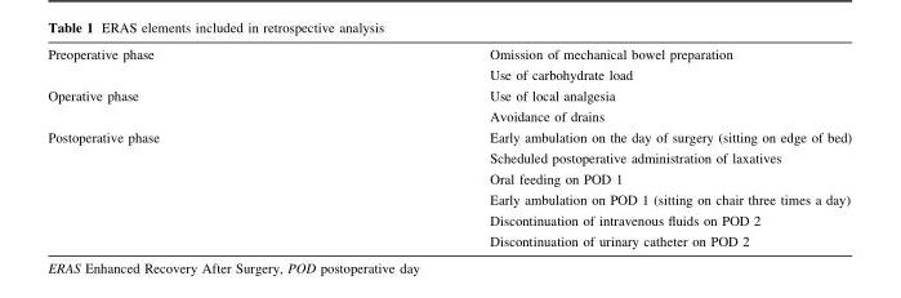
<table><tbody><tr><td rowspan="2">Preoperative phase</td><td>Omission of mechanical bowel preparation</td></tr><tr><td>Use of carbohydrate load</td></tr><tr><td rowspan="2">Operative phase</td><td>Use of local analgesia</td></tr><tr><td>Avoidance of drains</td></tr><tr><td rowspan="6">Postoperative phase</td><td>Early ambulation on the day of surgery (sitting on edge of bed)</td></tr><tr><td>Scheduled postoperative administration of laxatives</td></tr><tr><td>Oral feeding on POD 1</td></tr><tr><td>Early ambulation on POD 1 (sitting on chair three times a day)</td></tr><tr><td>Discontinuation of intravenous fluids on POD 2</td></tr><tr><td>Discontinuation of urinary catheter on POD 2</td></tr></tbody></table>